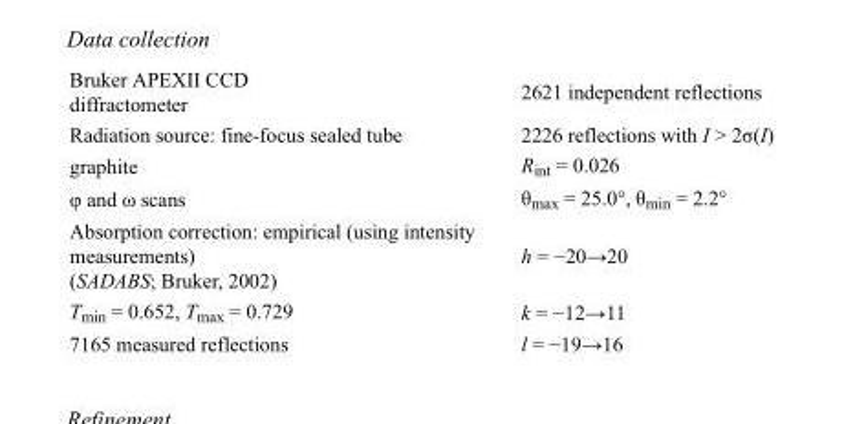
<table><tbody><tr><td>Bruker APEXII CCD diffractometer</td><td>2621 independent reflections</td></tr><tr><td>Radiation source: fine-focus sealed tube</td><td>2226 reflections with I &gt; 2σ(I)</td></tr><tr><td>graphite</td><td>R<sub>int</sub> = 0.026</td></tr><tr><td>φ and ω scans</td><td>θ<sub>max</sub> = 25.0°, θ<sub>min</sub> = 2.2°</td></tr><tr><td>Absorption correction: empirical (using intensity measurements) (SADABS; Bruker, 2002)</td><td>h = −20→20</td></tr><tr><td>T<sub>min</sub> = 0.652, T<sub>max</sub> = 0.729</td><td>k = −12→11</td></tr><tr><td>7165 measured reflections</td><td>l = −19→16</td></tr></tbody></table>